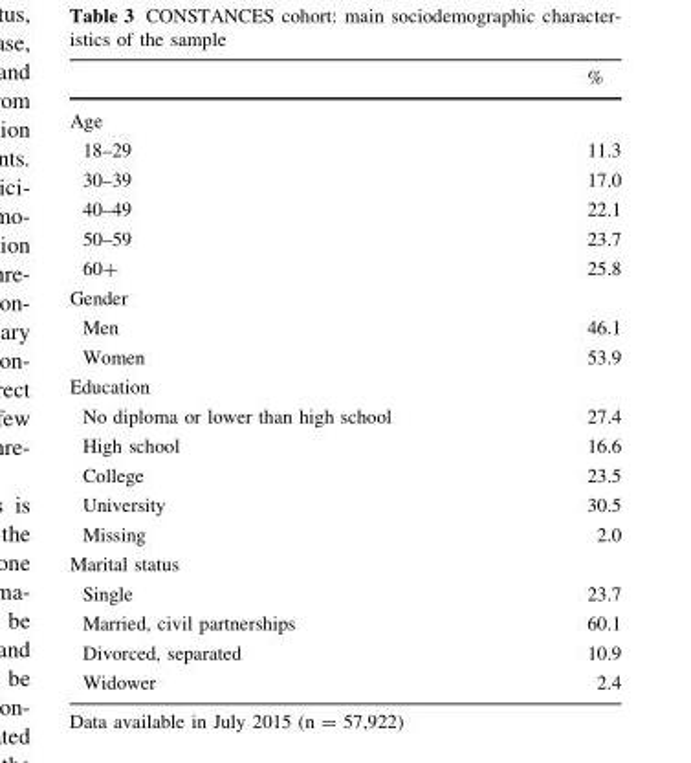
<table><thead><tr><td></td><td>%</td></tr></thead><tbody><tr><td colspan="2">Age</td></tr><tr><td>18–29</td><td>11.3</td></tr><tr><td>30–39</td><td>17.0</td></tr><tr><td>40–49</td><td>22.1</td></tr><tr><td>50–59</td><td>23.7</td></tr><tr><td>60+</td><td>25.8</td></tr><tr><td colspan="2">Gender</td></tr><tr><td>Men</td><td>46.1</td></tr><tr><td>Women</td><td>53.9</td></tr><tr><td colspan="2">Education</td></tr><tr><td>No diploma or lower than high school</td><td>27.4</td></tr><tr><td>High school</td><td>16.6</td></tr><tr><td>College</td><td>23.5</td></tr><tr><td>University</td><td>30.5</td></tr><tr><td>Missing</td><td>2.0</td></tr><tr><td colspan="2">Marital status</td></tr><tr><td>Single</td><td>23.7</td></tr><tr><td>Married, civil partnerships</td><td>60.1</td></tr><tr><td>Divorced, separated</td><td>10.9</td></tr><tr><td>Widower</td><td>2.4</td></tr></tbody></table>